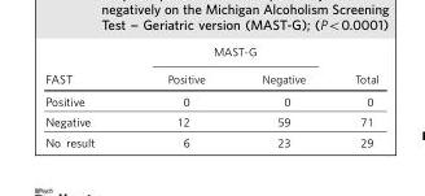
<table><thead><tr><td rowspan="2">FAST</td><td colspan="2">MAST-G</td><td rowspan="2">Total</td></tr><tr><td>Positive</td><td>Negative</td></tr></thead><tbody><tr><td>Positive</td><td>0</td><td>0</td><td>0</td></tr><tr><td>Negative</td><td>12</td><td>59</td><td>71</td></tr><tr><td>No result</td><td>6</td><td>23</td><td>29</td></tr></tbody></table>